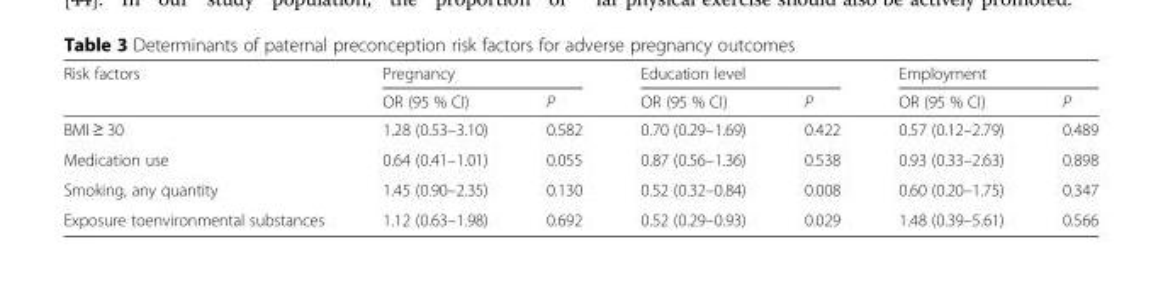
<table><thead><tr><td rowspan="2">Risk factors</td><td colspan="2">Pregnancy</td><td colspan="2">Education level</td><td colspan="2">Employment</td></tr><tr><td>OR (95 % CI)</td><td>P</td><td>OR (95 % CI)</td><td>P</td><td>OR (95 % CI)</td><td>P</td></tr></thead><tbody><tr><td>BMI ≥ 30</td><td>1.28 (0.53–3.10)</td><td>0.582</td><td>0.70 (0.29–1.69)</td><td>0.422</td><td>0.57 (0.12–2.79)</td><td>0.489</td></tr><tr><td>Medication use</td><td>0.64 (0.41–1.01)</td><td>0.055</td><td>0.87 (0.56–1.36)</td><td>0.538</td><td>0.93 (0.33–2.63)</td><td>0.898</td></tr><tr><td>Smoking, any quantity</td><td>1.45 (0.90–2.35)</td><td>0.130</td><td>0.52 (0.32–0.84)</td><td>0.008</td><td>0.60 (0.20–1.75)</td><td>0.347</td></tr><tr><td>Exposure toenvironmental substances</td><td>1.12 (0.63–1.98)</td><td>0.692</td><td>0.52 (0.29–0.93)</td><td>0.029</td><td>1.48 (0.39–5.61)</td><td>0.566</td></tr></tbody></table>